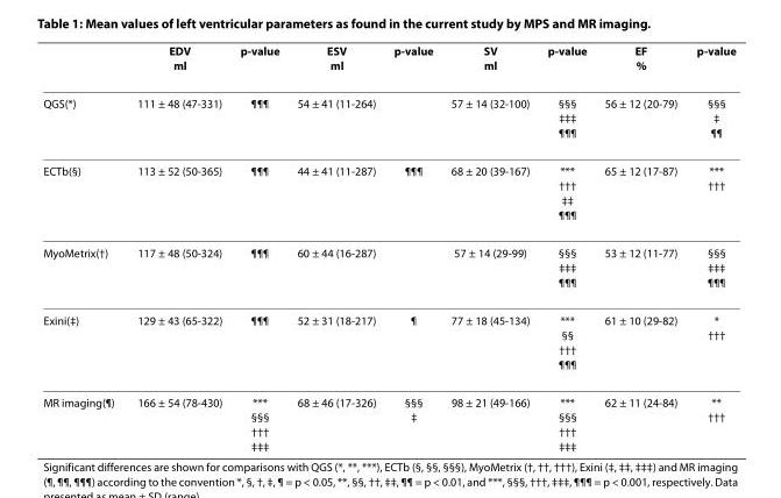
<table><thead><tr><td></td><td>EDV ml</td><td>p-value</td><td>ESV ml</td><td>p-value</td><td>SV ml</td><td>p-value</td><td>EF %</td><td>p-value</td></tr></thead><tbody><tr><td>QGS(*)</td><td>111 ± 48 (47-331)</td><td>¶¶¶</td><td>54 ± 41 (11-264)</td><td></td><td>57 ± 14 (32-100)</td><td>§§§ ‡‡‡ ¶¶¶</td><td>56 ± 12 (20-79)</td><td>§§§ ‡ ¶¶</td></tr><tr><td>ECTb(§)</td><td>113 ± 52 (50-365)</td><td>¶¶¶</td><td>44 ± 41 (11-287)</td><td>¶¶¶</td><td>68 ± 20 (39-167)</td><td>*** ††† ‡‡ ¶¶¶</td><td>65 ± 12 (17-87)</td><td>*** †††</td></tr><tr><td>MyoMetrix(†)</td><td>117 ± 48 (50-324)</td><td>¶¶¶</td><td>60 ± 44 (16-287)</td><td></td><td>57 ± 14 (29-99)</td><td>§§§ ‡‡‡ ¶¶¶</td><td>53 ± 12 (11-77)</td><td>§§§ ‡‡‡ ¶¶¶</td></tr><tr><td>Exini(‡)</td><td>129 ± 43 (65-322)</td><td>¶¶¶</td><td>52 ± 31 (18-217)</td><td>¶</td><td>77 ± 18 (45-134)</td><td>*** §§ ††† ¶¶¶</td><td>61 ± 10 (29-82)</td><td>* †††</td></tr><tr><td>MR imaging(¶)</td><td>166 ± 54 (78-430)</td><td>*** §§§ ††† ‡‡‡</td><td>68 ± 46 (17-326)</td><td>§§§ ‡</td><td>98 ± 21 (49-166)</td><td>*** §§§ ††† ‡‡‡</td><td>62 ± 11 (24-84)</td><td>** †††</td></tr></tbody></table>